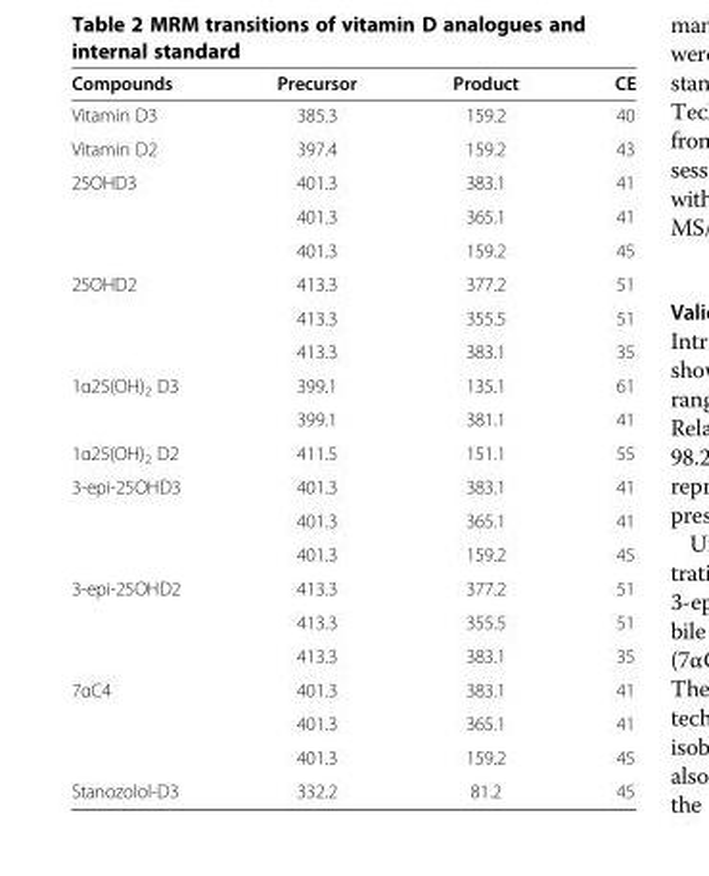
<table><thead><tr><td>Compounds</td><td>Precursor</td><td>Product</td><td>CE</td></tr></thead><tbody><tr><td>Vitamin D3</td><td>385.3</td><td>159.2</td><td>40</td></tr><tr><td>Vitamin D2</td><td>397.4</td><td>159.2</td><td>43</td></tr><tr><td rowspan="3">25OHD3</td><td>401.3</td><td>383.1</td><td>41</td></tr><tr><td>401.3</td><td>365.1</td><td>41</td></tr><tr><td>401.3</td><td>159.2</td><td>45</td></tr><tr><td rowspan="3">25OHD2</td><td>413.3</td><td>377.2</td><td>51</td></tr><tr><td>413.3</td><td>355.5</td><td>51</td></tr><tr><td>413.3</td><td>383.1</td><td>35</td></tr><tr><td rowspan="2">1α25(OH)<sub>2</sub> D3</td><td>399.1</td><td>135.1</td><td>61</td></tr><tr><td>399.1</td><td>381.1</td><td>41</td></tr><tr><td>1α25(OH)<sub>2</sub> D2</td><td>411.5</td><td>151.1</td><td>55</td></tr><tr><td rowspan="3">3-epi-25OHD3</td><td>401.3</td><td>383.1</td><td>41</td></tr><tr><td>401.3</td><td>365.1</td><td>41</td></tr><tr><td>401.3</td><td>159.2</td><td>45</td></tr><tr><td rowspan="3">3-epi-25OHD2</td><td>413.3</td><td>377.2</td><td>51</td></tr><tr><td>413.3</td><td>355.5</td><td>51</td></tr><tr><td>413.3</td><td>383.1</td><td>35</td></tr><tr><td rowspan="3">7αC4</td><td>401.3</td><td>383.1</td><td>41</td></tr><tr><td>401.3</td><td>365.1</td><td>41</td></tr><tr><td>401.3</td><td>159.2</td><td>45</td></tr><tr><td>Stanozolol-D3</td><td>332.2</td><td>81.2</td><td>45</td></tr></tbody></table>